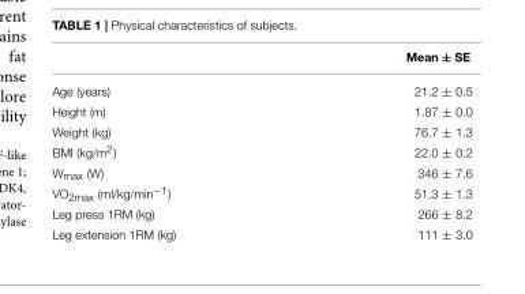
<table><thead><tr><td></td><td>Mean ± SE</td></tr></thead><tbody><tr><td>Age (years)</td><td>21.2 ± 0.5</td></tr><tr><td>Height (m)</td><td>1.87 ± 0.0</td></tr><tr><td>Weight (kg)</td><td>76.7 ± 1.3</td></tr><tr><td>BMI (kg/m<sup>2</sup>)</td><td>22.0 ± 0.2</td></tr><tr><td>W<sub>max</sub> (W)</td><td>346 ± 7.6</td></tr><tr><td>VO<sub>2max</sub> (ml/kg/min<sup>−1</sup>)</td><td>51.3 ± 1.3</td></tr><tr><td>Leg press 1RM (kg)</td><td>266 ± 8.2</td></tr><tr><td>Leg extension 1RM (kg)</td><td>111 ± 3.0</td></tr></tbody></table>